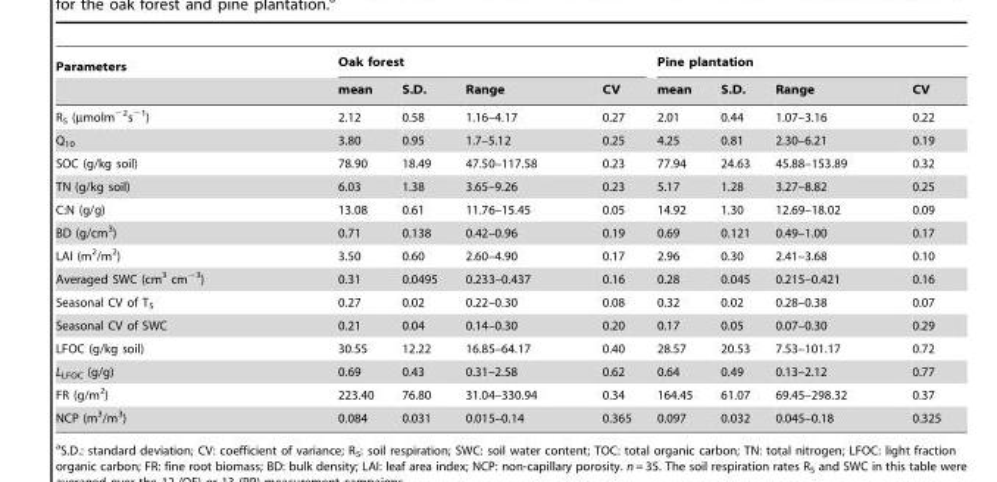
<table><thead><tr><td rowspan="2">Parameters</td><td colspan="4">Oak forest</td><td colspan="4">Pine plantation</td></tr><tr><td>mean</td><td>S.D.</td><td>Range</td><td>CV</td><td>mean</td><td>S.D.</td><td>Range</td><td>CV</td></tr></thead><tbody><tr><td>R<sub>S</sub> (µmolm<sup>−2</sup>s<sup>−1</sup>)</td><td>2.12</td><td>0.58</td><td>1.16–4.17</td><td>0.27</td><td>2.01</td><td>0.44</td><td>1.07–3.16</td><td>0.22</td></tr><tr><td>Q<sub>10</sub></td><td>3.80</td><td>0.95</td><td>1.7–5.12</td><td>0.25</td><td>4.25</td><td>0.81</td><td>2.30–6.21</td><td>0.19</td></tr><tr><td>SOC (g/kg soil)</td><td>78.90</td><td>18.49</td><td>47.50–117.58</td><td>0.23</td><td>77.94</td><td>24.63</td><td>45.88–153.89</td><td>0.32</td></tr><tr><td>TN (g/kg soil)</td><td>6.03</td><td>1.38</td><td>3.65–9.26</td><td>0.23</td><td>5.17</td><td>1.28</td><td>3.27–8.82</td><td>0.25</td></tr><tr><td>C:N (g/g)</td><td>13.08</td><td>0.61</td><td>11.76–15.45</td><td>0.05</td><td>14.92</td><td>1.30</td><td>12.69–18.02</td><td>0.09</td></tr><tr><td>BD (g/cm<sup>3</sup>)</td><td>0.71</td><td>0.138</td><td>0.42–0.96</td><td>0.19</td><td>0.69</td><td>0.121</td><td>0.49–1.00</td><td>0.17</td></tr><tr><td>LAI (m<sup>2</sup>/m<sup>2</sup>)</td><td>3.50</td><td>0.60</td><td>2.60–4.90</td><td>0.17</td><td>2.96</td><td>0.30</td><td>2.41–3.68</td><td>0.10</td></tr><tr><td>Averaged SWC (cm<sup>3</sup> cm<sup>−3</sup>)</td><td>0.31</td><td>0.0495</td><td>0.233–0.437</td><td>0.16</td><td>0.28</td><td>0.045</td><td>0.215–0.421</td><td>0.16</td></tr><tr><td>Seasonal CV of T<sub>5</sub></td><td>0.27</td><td>0.02</td><td>0.22–0.30</td><td>0.08</td><td>0.32</td><td>0.02</td><td>0.28–0.38</td><td>0.07</td></tr><tr><td>Seasonal CV of SWC</td><td>0.21</td><td>0.04</td><td>0.14–0.30</td><td>0.20</td><td>0.17</td><td>0.05</td><td>0.07–0.30</td><td>0.29</td></tr><tr><td>LFOC (g/kg soil)</td><td>30.55</td><td>12.22</td><td>16.85–64.17</td><td>0.40</td><td>28.57</td><td>20.53</td><td>7.53–101.17</td><td>0.72</td></tr><tr><td>L<sub>LFOC</sub> (g/g)</td><td>0.69</td><td>0.43</td><td>0.31–2.58</td><td>0.62</td><td>0.64</td><td>0.49</td><td>0.13–2.12</td><td>0.77</td></tr><tr><td>FR (g/m<sup>2</sup>)</td><td>223.40</td><td>76.80</td><td>31.04–330.94</td><td>0.34</td><td>164.45</td><td>61.07</td><td>69.45–298.32</td><td>0.37</td></tr><tr><td>NCP (m<sup>3</sup>/m<sup>3</sup>)</td><td>0.084</td><td>0.031</td><td>0.015–0.14</td><td>0.365</td><td>0.097</td><td>0.032</td><td>0.045–0.18</td><td>0.325</td></tr></tbody></table>